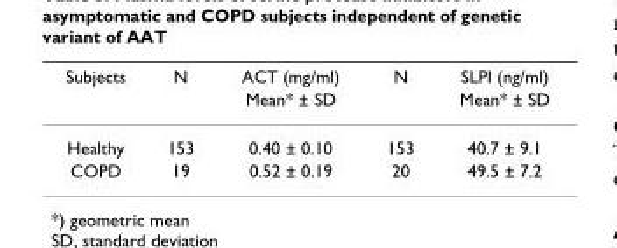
<table><thead><tr><td rowspan="2">Subjects</td><td rowspan="2">N</td><td rowspan="2">ACT (mg/ml) Mean* ± SD</td><td rowspan="2">N</td><td rowspan="2">SLPI (ng/ml) Mean* ± SD</td></tr><tr></tr></thead><tbody><tr><td>Healthy</td><td>153</td><td>0.40 ± 0.10</td><td>153</td><td>40.7 ± 9.1</td></tr><tr><td>COPD</td><td>19</td><td>0.52 ± 0.19</td><td>20</td><td>49.5 ± 7.2</td></tr></tbody></table>